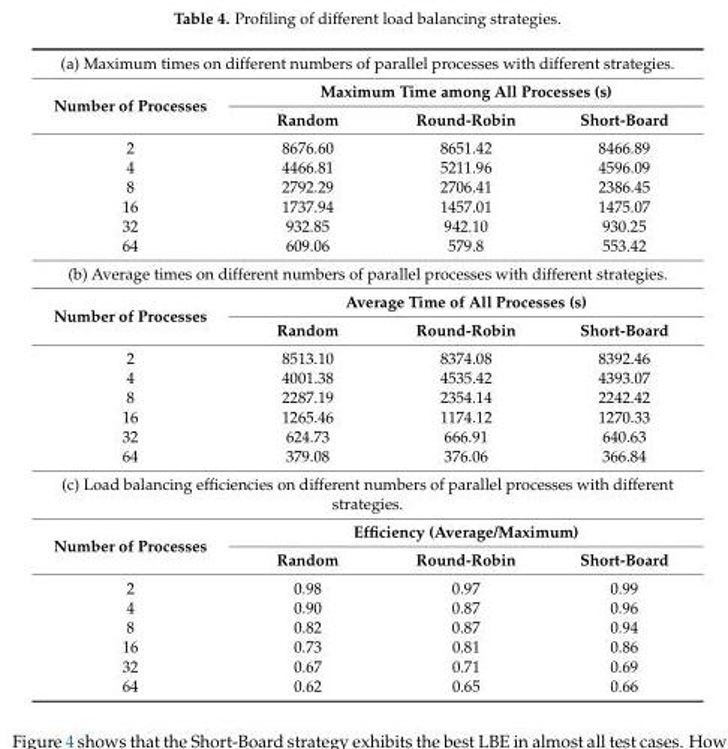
<table><tbody><tr><td colspan="4">(a) Maximum times on different numbers of parallel processes with different strategies.</td></tr><tr><td rowspan="2">Number of Processes</td><td colspan="3">Maximum Time among All Processes (s)</td></tr><tr><td>Random</td><td>Round-Robin</td><td>Short-Board</td></tr><tr><td>2</td><td>8676.60</td><td>8651.42</td><td>8466.89</td></tr><tr><td>4</td><td>4466.81</td><td>5211.96</td><td>4596.09</td></tr><tr><td>8</td><td>2792.29</td><td>2706.41</td><td>2386.45</td></tr><tr><td>16</td><td>1737.94</td><td>1457.01</td><td>1475.07</td></tr><tr><td>32</td><td>932.85</td><td>942.10</td><td>930.25</td></tr><tr><td>64</td><td>609.06</td><td>579.8</td><td>553.42</td></tr><tr><td colspan="4">(b) Average times on different numbers of parallel processes with different strategies.</td></tr><tr><td rowspan="2">Number of Processes</td><td colspan="3">Average Time of All Processes (s)</td></tr><tr><td>Random</td><td>Round-Robin</td><td>Short-Board</td></tr><tr><td>2</td><td>8513.10</td><td>8374.08</td><td>8392.46</td></tr><tr><td>4</td><td>4001.38</td><td>4535.42</td><td>4393.07</td></tr><tr><td>8</td><td>2287.19</td><td>2354.14</td><td>2242.42</td></tr><tr><td>16</td><td>1265.46</td><td>1174.12</td><td>1270.33</td></tr><tr><td>32</td><td>624.73</td><td>666.91</td><td>640.63</td></tr><tr><td>64</td><td>379.08</td><td>376.06</td><td>366.84</td></tr><tr><td colspan="4">(c) Load balancing efficiencies on different numbers of parallel processes with different strategies.</td></tr><tr><td rowspan="2">Number of Processes</td><td colspan="3">Efficiency (Average/Maximum)</td></tr><tr><td>Random</td><td>Round-Robin</td><td>Short-Board</td></tr><tr><td>2</td><td>0.98</td><td>0.97</td><td>0.99</td></tr><tr><td>4</td><td>0.90</td><td>0.87</td><td>0.96</td></tr><tr><td>8</td><td>0.82</td><td>0.87</td><td>0.94</td></tr><tr><td>16</td><td>0.73</td><td>0.81</td><td>0.86</td></tr><tr><td>32</td><td>0.67</td><td>0.71</td><td>0.69</td></tr><tr><td>64</td><td>0.62</td><td>0.65</td><td>0.66</td></tr></tbody></table>